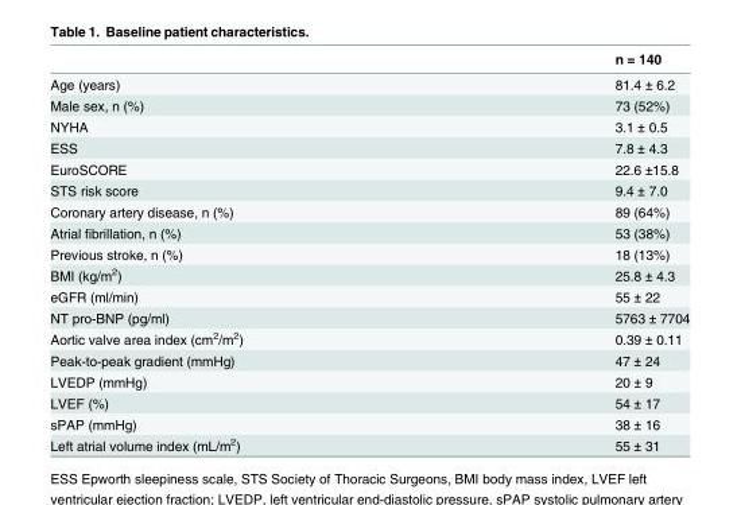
<table><thead><tr><td></td><td>n = 140</td></tr></thead><tbody><tr><td>Age (years)</td><td>81.4 ± 6.2</td></tr><tr><td>Male sex, n (%)</td><td>73 (52%)</td></tr><tr><td>NYHA</td><td>3.1 ± 0.5</td></tr><tr><td>ESS</td><td>7.8 ± 4.3</td></tr><tr><td>EuroSCORE</td><td>22.6 ±15.8</td></tr><tr><td>STS risk score</td><td>9.4 ± 7.0</td></tr><tr><td>Coronary artery disease, n (%)</td><td>89 (64%)</td></tr><tr><td>Atrial fibrillation, n (%)</td><td>53 (38%)</td></tr><tr><td>Previous stroke, n (%)</td><td>18 (13%)</td></tr><tr><td>BMI (kg/m<sup>2</sup>)</td><td>25.8 ± 4.3</td></tr><tr><td>eGFR (ml/min)</td><td>55 ± 22</td></tr><tr><td>NT pro-BNP (pg/ml)</td><td>5763 ± 7704</td></tr><tr><td>Aortic valve area index (cm<sup>2</sup>/m<sup>2</sup>)</td><td>0.39 ± 0.11</td></tr><tr><td>Peak-to-peak gradient (mmHg)</td><td>47 ± 24</td></tr><tr><td>LVEDP (mmHg)</td><td>20 ± 9</td></tr><tr><td>LVEF (%)</td><td>54 ± 17</td></tr><tr><td>sPAP (mmHg)</td><td>38 ± 16</td></tr><tr><td>Left atrial volume index (mL/m<sup>2</sup>)</td><td>55 ± 31</td></tr></tbody></table>